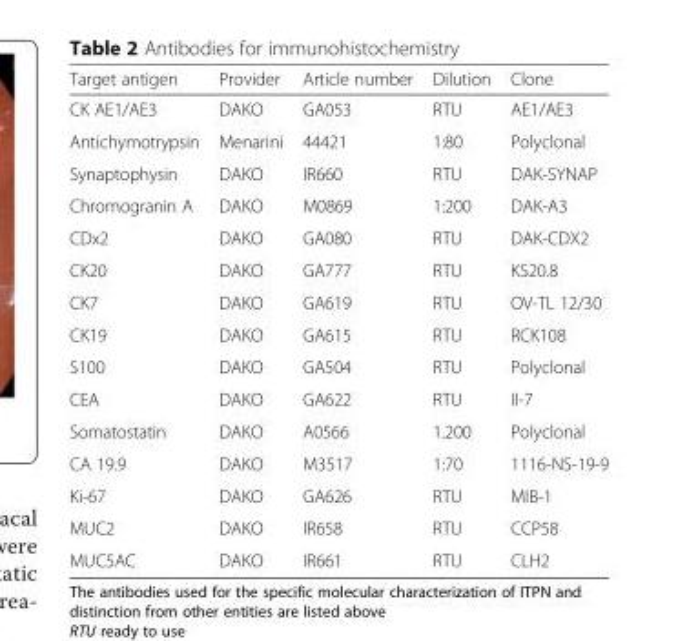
<table><thead><tr><td>Target antigen</td><td>Provider</td><td>Article number</td><td>Dilution</td><td>Clone</td></tr></thead><tbody><tr><td>CK AE1/AE3</td><td>DAKO</td><td>GA053</td><td>RTU</td><td>AE1/AE3</td></tr><tr><td>Antichymotrypsin</td><td>Menarini</td><td>44421</td><td>1:80</td><td>Polyclonal</td></tr><tr><td>Synaptophysin</td><td>DAKO</td><td>IR660</td><td>RTU</td><td>DAK-SYNAP</td></tr><tr><td>Chromogranin A</td><td>DAKO</td><td>M0869</td><td>1:200</td><td>DAK-A3</td></tr><tr><td>CDx2</td><td>DAKO</td><td>GA080</td><td>RTU</td><td>DAK-CDX2</td></tr><tr><td>CK20</td><td>DAKO</td><td>GA777</td><td>RTU</td><td>KS20.8</td></tr><tr><td>CK7</td><td>DAKO</td><td>GA619</td><td>RTU</td><td>OV-TL 12/30</td></tr><tr><td>CK19</td><td>DAKO</td><td>GA615</td><td>RTU</td><td>RCK108</td></tr><tr><td>S100</td><td>DAKO</td><td>GA504</td><td>RTU</td><td>Polyclonal</td></tr><tr><td>CEA</td><td>DAKO</td><td>GA622</td><td>RTU</td><td>II-7</td></tr><tr><td>Somatostatin</td><td>DAKO</td><td>A0566</td><td>1.200</td><td>Polyclonal</td></tr><tr><td>CA 19.9</td><td>DAKO</td><td>M3517</td><td>1:70</td><td>1116-NS-19-9</td></tr><tr><td>Ki-67</td><td>DAKO</td><td>GA626</td><td>RTU</td><td>MIB-1</td></tr><tr><td>MUC2</td><td>DAKO</td><td>IR658</td><td>RTU</td><td>CCP58</td></tr><tr><td>MUC5AC</td><td>DAKO</td><td>IR661</td><td>RTU</td><td>CLH2</td></tr></tbody></table>